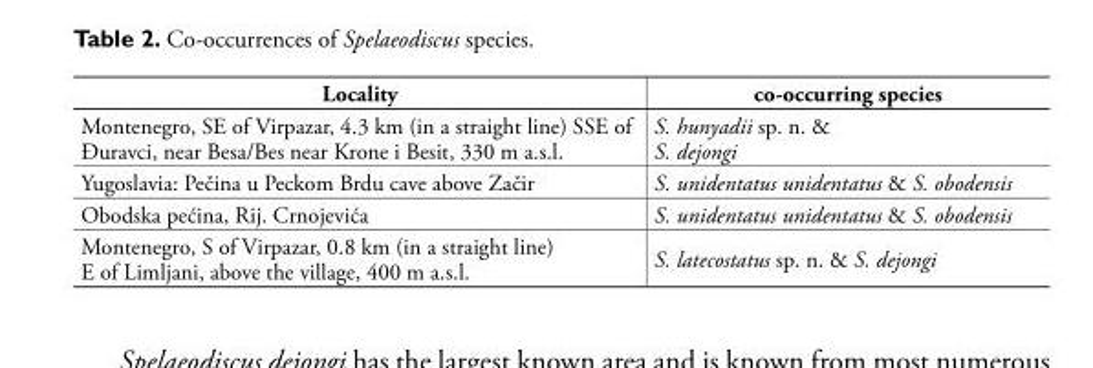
<table><thead><tr><td>Locality</td><td>co-occurring species</td></tr></thead><tbody><tr><td>Montenegro, SE of Virpazar, 4.3 km (in a straight line) SSE of Ðuravci, near Besa/Bes near Krone i Besit, 330 m a.s.l.</td><td>S. hunyadii sp. n. &amp; S. dejongi</td></tr><tr><td>Yugoslavia: Pečina u Peckom Brdu cave above Začir</td><td>S. unidentatus unidentatus &amp; S. obodensis</td></tr><tr><td>Obodska pećina, Rij. Crnojevića</td><td>S. unidentatus unidentatus &amp; S. obodensis</td></tr><tr><td>Montenegro, S of Virpazar, 0.8 km (in a straight line) E of Limljani, above the village, 400 m a.s.l.</td><td>S. latecostatus sp. n. &amp; S. dejongi</td></tr></tbody></table>